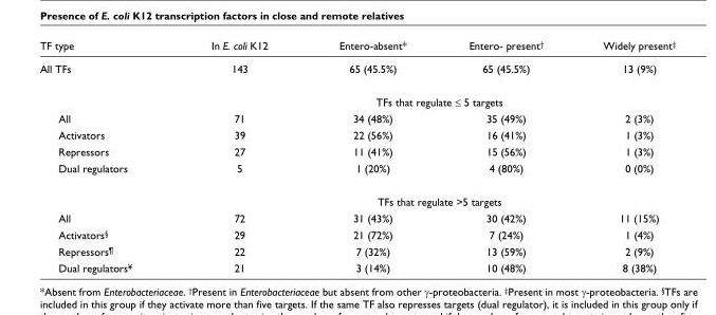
<table><thead><tr><td>TF type</td><td>In E. coli K12</td><td>Entero-absent*</td><td>Entero- present†</td><td>Widely present‡</td></tr></thead><tbody><tr><td rowspan="2">All TFs</td><td>143</td><td>65 (45.5%)</td><td>65 (45.5%)</td><td>13 (9%)</td></tr><tr><td></td><td colspan="2">TFs that regulate ≤ 5 targets</td><td></td></tr><tr><td>All</td><td>71</td><td>34 (48%)</td><td>35 (49%)</td><td>2 (3%)</td></tr><tr><td>Activators</td><td>39</td><td>22 (56%)</td><td>16 (41%)</td><td>1 (3%)</td></tr><tr><td>Repressors</td><td>27</td><td>11 (41%)</td><td>15 (56%)</td><td>1 (3%)</td></tr><tr><td rowspan="2">Dual regulators</td><td>5</td><td>1 (20%)</td><td>4 (80%)</td><td>0 (0%)</td></tr><tr><td></td><td colspan="2">TFs that regulate &gt;5 targets</td><td></td></tr><tr><td>All</td><td>72</td><td>31 (43%)</td><td>30 (42%)</td><td>11 (15%)</td></tr><tr><td>Activators§</td><td>29</td><td>21 (72%)</td><td>7 (24%)</td><td>1 (4%)</td></tr><tr><td>Repressors¶</td><td>22</td><td>7 (32%)</td><td>13 (59%)</td><td>2 (9%)</td></tr><tr><td>Dual regulators¥</td><td>21</td><td>3 (14%)</td><td>10 (48%)</td><td>8 (38%)</td></tr></tbody></table>